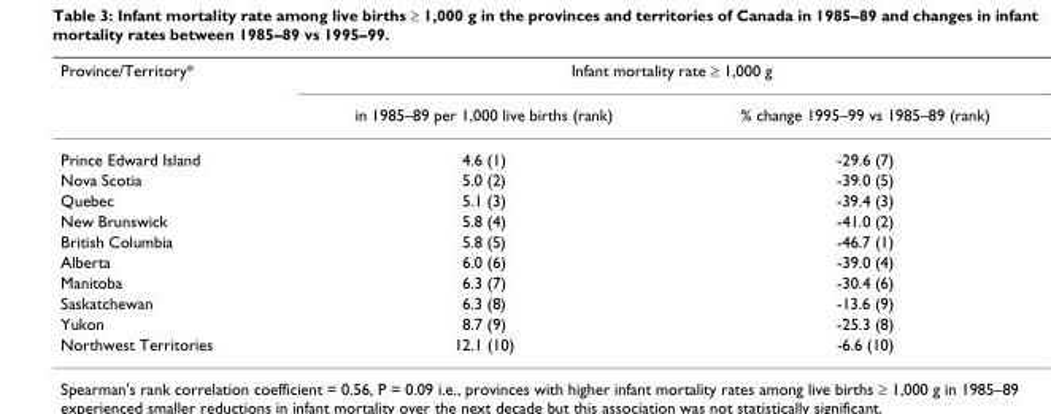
<table><thead><tr><td rowspan="2">Province/Territory*</td><td colspan="2">Infant mortality rate ≥ 1,000 g</td></tr><tr><td>in 1985–89 per 1,000 live births (rank)</td><td>% change 1995–99 vs 1985–89 (rank)</td></tr></thead><tbody><tr><td>Prince Edward Island</td><td>4.6 (1)</td><td>-29.6 (7)</td></tr><tr><td>Nova Scotia</td><td>5.0 (2)</td><td>-39.0 (5)</td></tr><tr><td>Quebec</td><td>5.1 (3)</td><td>-39.4 (3)</td></tr><tr><td>New Brunswick</td><td>5.8 (4)</td><td>-41.0 (2)</td></tr><tr><td>British Columbia</td><td>5.8 (5)</td><td>-46.7 (1)</td></tr><tr><td>Alberta</td><td>6.0 (6)</td><td>-39.0 (4)</td></tr><tr><td>Manitoba</td><td>6.3 (7)</td><td>-30.4 (6)</td></tr><tr><td>Saskatchewan</td><td>6.3 (8)</td><td>-13.6 (9)</td></tr><tr><td>Yukon</td><td>8.7 (9)</td><td>-25.3 (8)</td></tr><tr><td>Northwest Territories</td><td>12.1 (10)</td><td>-6.6 (10)</td></tr></tbody></table>